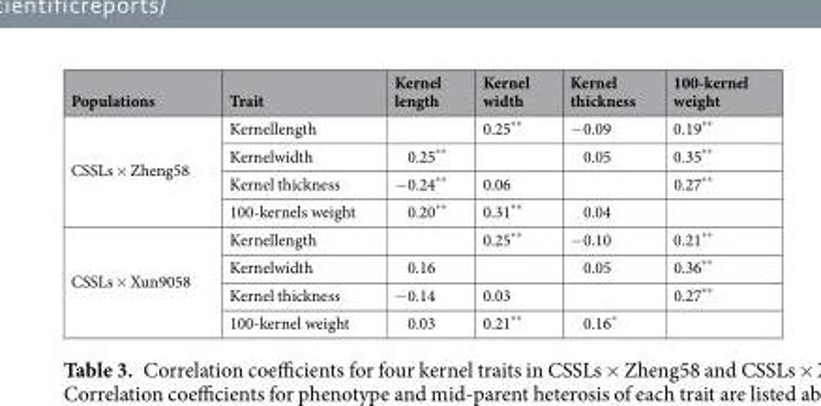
<table><thead><tr><td>Populations</td><td>Trait</td><td>Kernel length</td><td>Kernel width</td><td>Kernel thickness</td><td>100-kernel weight</td></tr></thead><tbody><tr><td rowspan="4">CSSLs × Zheng58</td><td>Kernellength</td><td></td><td>0.25**</td><td>−0.09</td><td>0.19**</td></tr><tr><td>Kernelwidth</td><td>0.25**</td><td></td><td>0.05</td><td>0.35**</td></tr><tr><td>Kernel thickness</td><td>−0.24**</td><td>0.06</td><td></td><td>0.27**</td></tr><tr><td>100-kernels weight</td><td>0.20**</td><td>0.31**</td><td>0.04</td><td></td></tr><tr><td rowspan="4">CSSLs × Xun9058</td><td>Kernellength</td><td></td><td>0.25**</td><td>−0.10</td><td>0.21**</td></tr><tr><td>Kernelwidth</td><td>0.16</td><td></td><td>0.05</td><td>0.36**</td></tr><tr><td>Kernel thickness</td><td>−0.14</td><td>0.03</td><td></td><td>0.27**</td></tr><tr><td>100-kernel weight</td><td>0.03</td><td>0.21**</td><td>0.16*</td><td></td></tr></tbody></table>